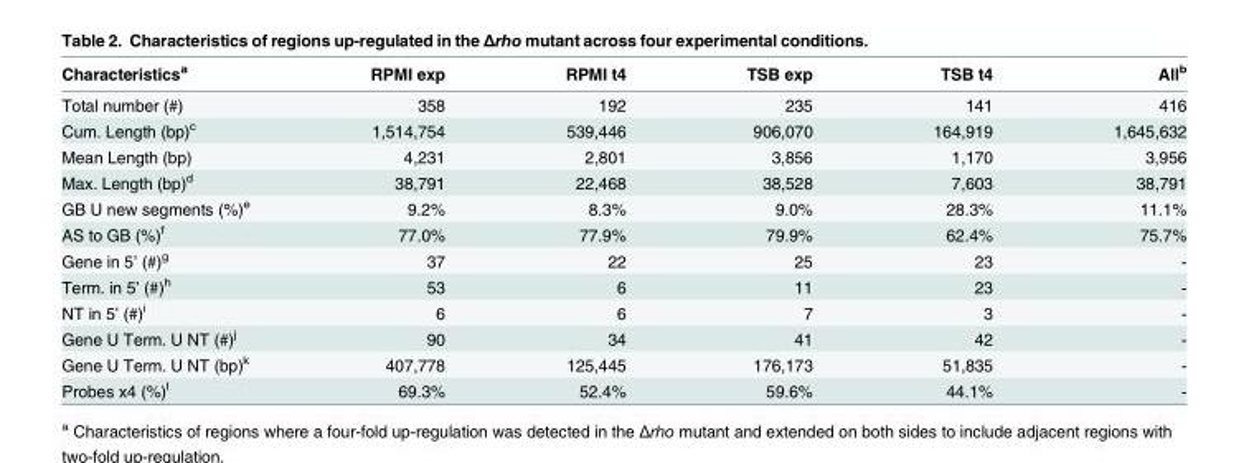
<table><thead><tr><td>Characteristics<sup>a</sup></td><td>RPMI exp</td><td>RPMI t4</td><td>TSB exp</td><td>TSB t4</td><td>All<sup>b</sup></td></tr></thead><tbody><tr><td>Total number (#)</td><td>358</td><td>192</td><td>235</td><td>141</td><td>416</td></tr><tr><td>Cum. Length (bp)<sup>c</sup></td><td>1,514,754</td><td>539,446</td><td>906,070</td><td>164,919</td><td>1,645,632</td></tr><tr><td>Mean Length (bp)</td><td>4,231</td><td>2,801</td><td>3,856</td><td>1,170</td><td>3,956</td></tr><tr><td>Max. Length (bp)<sup>d</sup></td><td>38,791</td><td>22,468</td><td>38,528</td><td>7,603</td><td>38,791</td></tr><tr><td>GB U new segments (%)<sup>e</sup></td><td>9.2%</td><td>8.3%</td><td>9.0%</td><td>28.3%</td><td>11.1%</td></tr><tr><td>AS to GB (%)<sup>f</sup></td><td>77.0%</td><td>77.9%</td><td>79.9%</td><td>62.4%</td><td>75.7%</td></tr><tr><td>Gene in 5’ (#)<sup>g</sup></td><td>37</td><td>22</td><td>25</td><td>23</td><td>-</td></tr><tr><td>Term. in 5’ (#)<sup>h</sup></td><td>53</td><td>6</td><td>11</td><td>23</td><td>-</td></tr><tr><td>NT in 5’ (#)<sup>i</sup></td><td>6</td><td>6</td><td>7</td><td>3</td><td>-</td></tr><tr><td>Gene U Term. U NT (#)<sup>j</sup></td><td>90</td><td>34</td><td>41</td><td>42</td><td>-</td></tr><tr><td>Gene U Term. U NT (bp)<sup>k</sup></td><td>407,778</td><td>125,445</td><td>176,173</td><td>51,835</td><td>-</td></tr><tr><td>Probes x4 (%)<sup>l</sup></td><td>69.3%</td><td>52.4%</td><td>59.6%</td><td>44.1%</td><td>-</td></tr></tbody></table>